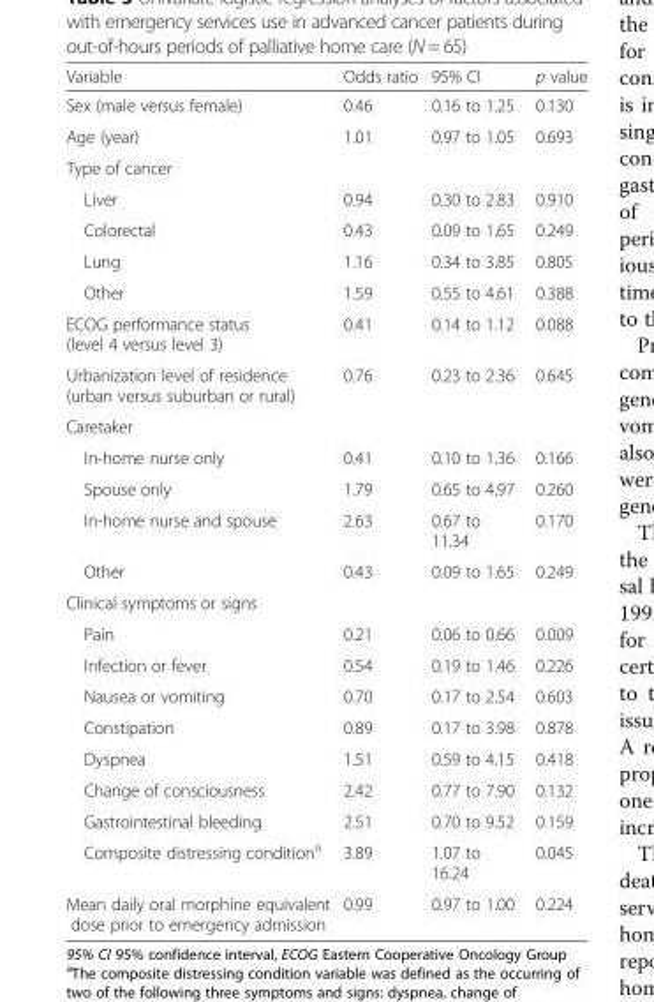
<table><thead><tr><td>Variable</td><td>Odds ratio</td><td>95% CI</td><td>p value</td></tr></thead><tbody><tr><td>Sex (male versus female)</td><td>0.46</td><td>0.16 to 1.25</td><td>0.130</td></tr><tr><td>Age (year)</td><td>1.01</td><td>0.97 to 1.05</td><td>0.693</td></tr><tr><td colspan="4">Type of cancer</td></tr><tr><td>Liver</td><td>0.94</td><td>0.30 to 2.83</td><td>0.910</td></tr><tr><td>Colorectal</td><td>0.43</td><td>0.09 to 1.65</td><td>0.249</td></tr><tr><td>Lung</td><td>1.16</td><td>0.34 to 3.85</td><td>0.805</td></tr><tr><td>Other</td><td>1.59</td><td>0.55 to 4.61</td><td>0.388</td></tr><tr><td>ECOG performance status (level 4 versus level 3)</td><td>0.41</td><td>0.14 to 1.12</td><td>0.088</td></tr><tr><td>Urbanization level of residence (urban versus suburban or rural)</td><td>0.76</td><td>0.23 to 2.36</td><td>0.645</td></tr><tr><td colspan="4">Caretaker</td></tr><tr><td>In-home nurse only</td><td>0.41</td><td>0.10 to 1.36</td><td>0.166</td></tr><tr><td>Spouse only</td><td>1.79</td><td>0.65 to 4.97</td><td>0.260</td></tr><tr><td>In-home nurse and spouse</td><td>2.63</td><td>0.67 to 11.34</td><td>0.170</td></tr><tr><td>Other</td><td>0.43</td><td>0.09 to 1.65</td><td>0.249</td></tr><tr><td colspan="4">Clinical symptoms or signs</td></tr><tr><td>Pain</td><td>0.21</td><td>0.06 to 0.66</td><td>0.009</td></tr><tr><td>Infection or fever</td><td>0.54</td><td>0.19 to 1.46</td><td>0.226</td></tr><tr><td>Nausea or vomiting</td><td>0.70</td><td>0.17 to 2.54</td><td>0.603</td></tr><tr><td>Constipation</td><td>0.89</td><td>0.17 to 3.98</td><td>0.878</td></tr><tr><td>Dyspnea</td><td>1.51</td><td>0.59 to 4.15</td><td>0.418</td></tr><tr><td>Change of consciousness</td><td>2.42</td><td>0.77 to 7.90</td><td>0.132</td></tr><tr><td>Gastrointestinal bleeding</td><td>2.51</td><td>0.70 to 9.52</td><td>0.159</td></tr><tr><td>Composite distressing condition<sup>a</sup></td><td>3.89</td><td>1.07 to 16.24</td><td>0.045</td></tr><tr><td>Mean daily oral morphine equivalent dose prior to emergency admission</td><td>0.99</td><td>0.97 to 1.00</td><td>0.224</td></tr></tbody></table>